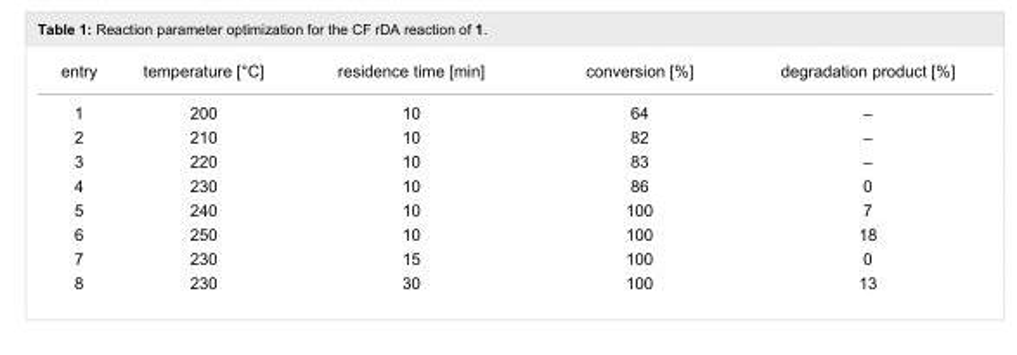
<table><tbody><tr><td>entry</td><td>temperature [°C]</td><td>residence time [min]</td><td>conversion [%]</td><td>degradation product [%]</td></tr><tr><td>1</td><td>200</td><td>10</td><td>64</td><td>–</td></tr><tr><td>2</td><td>210</td><td>10</td><td>82</td><td>–</td></tr><tr><td>3</td><td>220</td><td>10</td><td>83</td><td>–</td></tr><tr><td>4</td><td>230</td><td>10</td><td>86</td><td>0</td></tr><tr><td>5</td><td>240</td><td>10</td><td>100</td><td>7</td></tr><tr><td>6</td><td>250</td><td>10</td><td>100</td><td>18</td></tr><tr><td>7</td><td>230</td><td>15</td><td>100</td><td>0</td></tr><tr><td>8</td><td>230</td><td>30</td><td>100</td><td>13</td></tr></tbody></table>